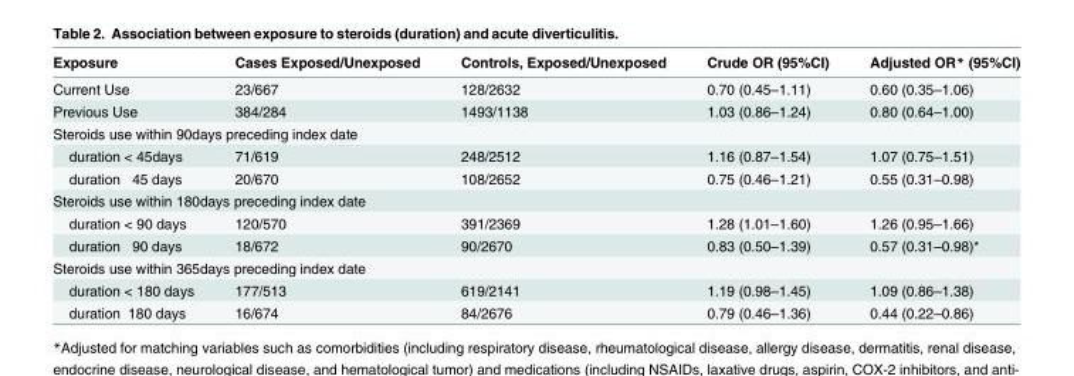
<table><thead><tr><td>Exposure</td><td>Cases Exposed/Unexposed</td><td>Controls, Exposed/Unexposed</td><td>Crude OR (95%CI)</td><td>Adjusted OR* (95%CI)</td></tr></thead><tbody><tr><td>Current Use</td><td>23/667</td><td>128/2632</td><td>0.70 (0.45–1.11)</td><td>0.60 (0.35–1.06)</td></tr><tr><td>Previous Use</td><td>384/284</td><td>1493/1138</td><td>1.03 (0.86–1.24)</td><td>0.80 (0.64–1.00)</td></tr><tr><td colspan="5">Steroids use within 90days preceding index date</td></tr><tr><td>duration &lt; 45days</td><td>71/619</td><td>248/2512</td><td>1.16 (0.87–1.54)</td><td>1.07 (0.75–1.51)</td></tr><tr><td>duration ≧ 45 days</td><td>20/670</td><td>108/2652</td><td>0.75 (0.46–1.21)</td><td>0.55 (0.31–0.98)</td></tr><tr><td colspan="5">Steroids use within 180days preceding index date</td></tr><tr><td>duration &lt; 90 days</td><td>120/570</td><td>391/2369</td><td>1.28 (1.01–1.60)</td><td>1.26 (0.95–1.66)</td></tr><tr><td>duration ≧ 90 days</td><td>18/672</td><td>90/2670</td><td>0.83 (0.50–1.39)</td><td>0.57 (0.31–0.98)*</td></tr><tr><td colspan="5">Steroids use within 365days preceding index date</td></tr><tr><td>duration &lt; 180 days</td><td>177/513</td><td>619/2141</td><td>1.19 (0.98–1.45)</td><td>1.09 (0.86–1.38)</td></tr><tr><td>duration≧ 180 days</td><td>16/674</td><td>84/2676</td><td>0.79 (0.46–1.36)</td><td>0.44 (0.22–0.86)</td></tr></tbody></table>